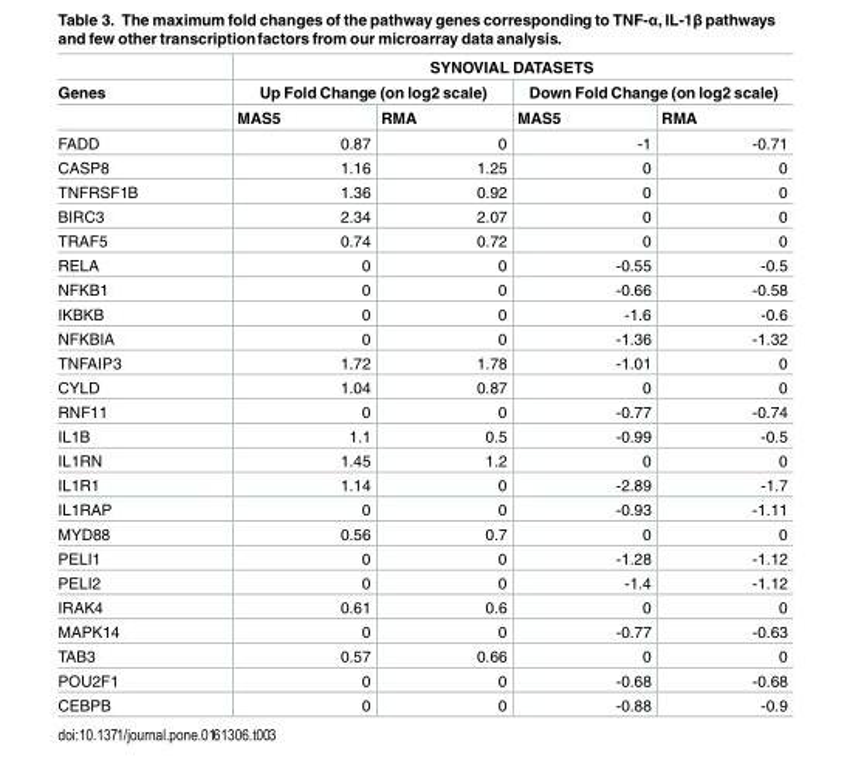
<table><thead><tr><td rowspan="3">Genes</td><td colspan="4">SYNOVIAL DATASETS</td></tr><tr><td colspan="2">Up Fold Change (on log2 scale)</td><td colspan="2">Down Fold Change (on log2 scale)</td></tr><tr><td>MAS5</td><td>RMA</td><td>MAS5</td><td>RMA</td></tr></thead><tbody><tr><td>FADD</td><td>0.87</td><td>0</td><td>-1</td><td>-0.71</td></tr><tr><td>CASP8</td><td>1.16</td><td>1.25</td><td>0</td><td>0</td></tr><tr><td>TNFRSF1B</td><td>1.36</td><td>0.92</td><td>0</td><td>0</td></tr><tr><td>BIRC3</td><td>2.34</td><td>2.07</td><td>0</td><td>0</td></tr><tr><td>TRAF5</td><td>0.74</td><td>0.72</td><td>0</td><td>0</td></tr><tr><td>RELA</td><td>0</td><td>0</td><td>-0.55</td><td>-0.5</td></tr><tr><td>NFKB1</td><td>0</td><td>0</td><td>-0.66</td><td>-0.58</td></tr><tr><td>IKBKB</td><td>0</td><td>0</td><td>-1.6</td><td>-0.6</td></tr><tr><td>NFKBIA</td><td>0</td><td>0</td><td>-1.36</td><td>-1.32</td></tr><tr><td>TNFAIP3</td><td>1.72</td><td>1.78</td><td>-1.01</td><td>0</td></tr><tr><td>CYLD</td><td>1.04</td><td>0.87</td><td>0</td><td>0</td></tr><tr><td>RNF11</td><td>0</td><td>0</td><td>-0.77</td><td>-0.74</td></tr><tr><td>IL1B</td><td>1.1</td><td>0.5</td><td>-0.99</td><td>-0.5</td></tr><tr><td>IL1RN</td><td>1.45</td><td>1.2</td><td>0</td><td>0</td></tr><tr><td>IL1R1</td><td>1.14</td><td>0</td><td>-2.89</td><td>-1.7</td></tr><tr><td>IL1RAP</td><td>0</td><td>0</td><td>-0.93</td><td>-1.11</td></tr><tr><td>MYD88</td><td>0.56</td><td>0.7</td><td>0</td><td>0</td></tr><tr><td>PELI1</td><td>0</td><td>0</td><td>-1.28</td><td>-1.12</td></tr><tr><td>PELI2</td><td>0</td><td>0</td><td>-1.4</td><td>-1.12</td></tr><tr><td>IRAK4</td><td>0.61</td><td>0.6</td><td>0</td><td>0</td></tr><tr><td>MAPK14</td><td>0</td><td>0</td><td>-0.77</td><td>-0.63</td></tr><tr><td>TAB3</td><td>0.57</td><td>0.66</td><td>0</td><td>0</td></tr><tr><td>POU2F1</td><td>0</td><td>0</td><td>-0.68</td><td>-0.68</td></tr><tr><td>CEBPB</td><td>0</td><td>0</td><td>-0.88</td><td>-0.9</td></tr></tbody></table>